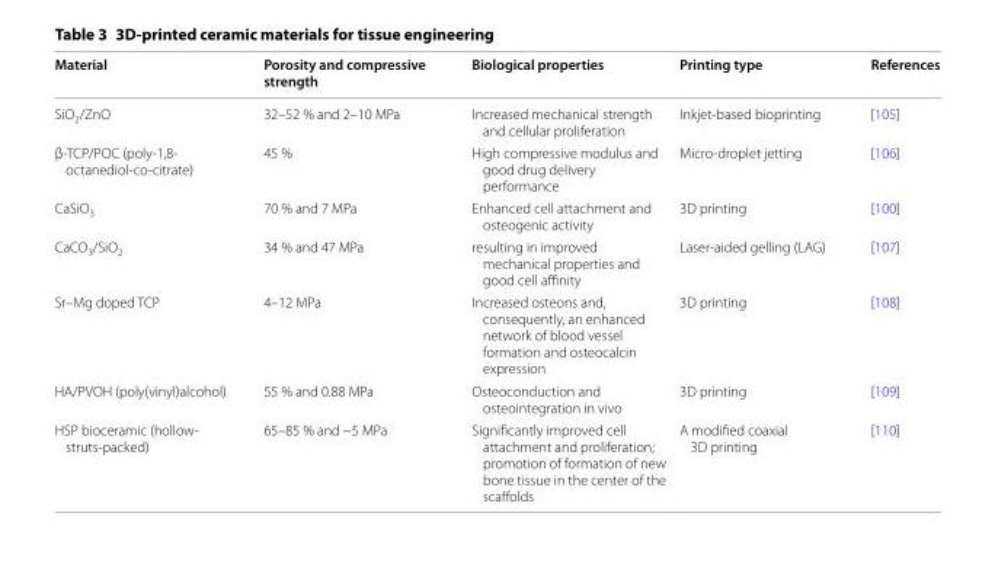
<table><thead><tr><td>Material</td><td>Porosity and compressive strength</td><td>Biological properties</td><td>Printing type</td><td>References</td></tr></thead><tbody><tr><td>SiO<sub>2</sub>/ZnO</td><td>32–52 % and 2–10 MPa</td><td>Increased mechanical strength and cellular proliferation</td><td>Inkjet-based bioprinting</td><td>[105]</td></tr><tr><td>β-TCP/POC (poly-1,8- octanediol-co-citrate)</td><td>45 %</td><td>High compressive modulus and good drug delivery performance</td><td>Micro-droplet jetting</td><td>[106]</td></tr><tr><td>CaSiO<sub>3</sub></td><td>70 % and 7 MPa</td><td>Enhanced cell attachment and osteogenic activity</td><td>3D printing</td><td>[100]</td></tr><tr><td>CaCO<sub>3</sub>/SiO<sub>2</sub></td><td>34 % and 47 MPa</td><td>resulting in improved mechanical properties and good cell affinity</td><td>Laser-aided gelling (LAG)</td><td>[107]</td></tr><tr><td>Sr–Mg doped TCP</td><td>4–12 MPa</td><td>Increased osteons and, consequently, an enhanced network of blood vessel formation and osteocalcin expression</td><td>3D printing</td><td>[108]</td></tr><tr><td>HA/PVOH (poly(vinyl)alcohol)</td><td>55 % and 0.88 MPa</td><td>Osteoconduction and osteointegration in vivo</td><td>3D printing</td><td>[109]</td></tr><tr><td>HSP bioceramic (hollow- struts-packed)</td><td>65–85 % and ~5 MPa</td><td>Significantly improved cell attachment and proliferation; promotion of formation of new bone tissue in the center of the scaffolds</td><td>A modified coaxial 3D printing</td><td>[110]</td></tr></tbody></table>